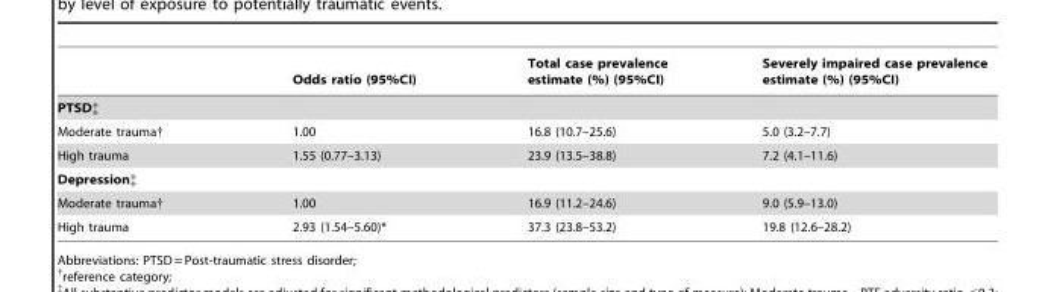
<table><thead><tr><td></td><td>Odds ratio (95%CI)</td><td>Total case prevalence estimate (%) (95%CI)</td><td>Severely impaired case prevalence estimate (%) (95%CI)</td></tr></thead><tbody><tr><td colspan="4">PTSD‡</td></tr><tr><td>Moderate trauma†</td><td>1.00</td><td>16.8 (10.7–25.6)</td><td>5.0 (3.2–7.7)</td></tr><tr><td>High trauma</td><td>1.55 (0.77–3.13)</td><td>23.9 (13.5–38.8)</td><td>7.2 (4.1–11.6)</td></tr><tr><td colspan="4">Depression‡</td></tr><tr><td>Moderate trauma†</td><td>1.00</td><td>16.9 (11.2–24.6)</td><td>9.0 (5.9–13.0)</td></tr><tr><td>High trauma</td><td>2.93 (1.54–5.60)*</td><td>37.3 (23.8–53.2)</td><td>19.8 (12.6–28.2)</td></tr></tbody></table>